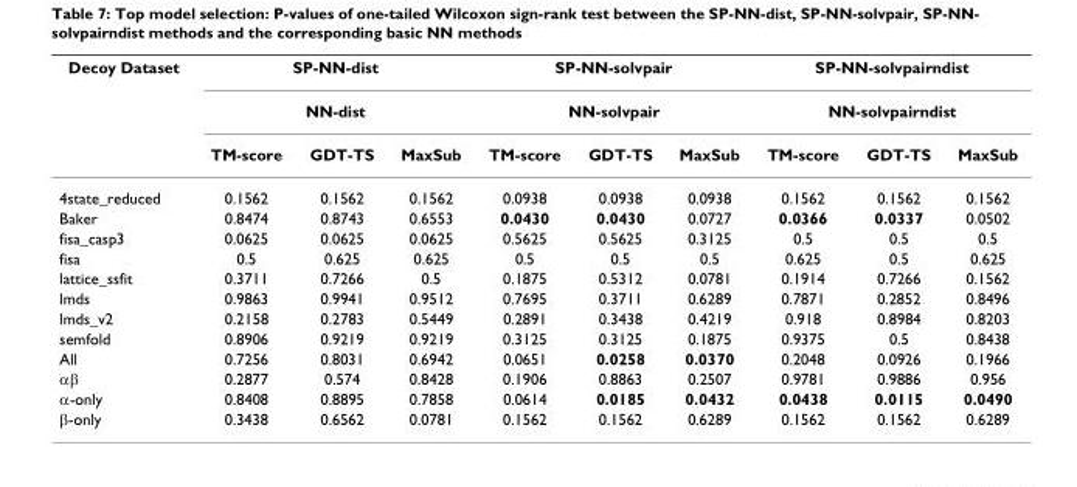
<table><thead><tr><td rowspan="3">Decoy Dataset</td><td rowspan="2" colspan="3">SP-NN-dist NN-dist</td><td rowspan="2" colspan="3">SP-NN-solvpair NN-solvpair</td><td rowspan="2" colspan="3">SP-NN-solvpairndist NN-solvpairndist</td></tr><tr></tr><tr><td>TM-score</td><td>GDT-TS</td><td>MaxSub</td><td>TM-score</td><td>GDT-TS</td><td>MaxSub</td><td>TM-score</td><td>GDT-TS</td><td>MaxSub</td></tr></thead><tbody><tr><td>4state_reduced</td><td>0.1562</td><td>0.1562</td><td>0.1562</td><td>0.0938</td><td>0.0938</td><td>0.0938</td><td>0.1562</td><td>0.1562</td><td>0.1562</td></tr><tr><td>Baker</td><td>0.8474</td><td>0.8743</td><td>0.6553</td><td>0.0430</td><td>0.0430</td><td>0.0727</td><td>0.0366</td><td>0.0337</td><td>0.0502</td></tr><tr><td>fisa_casp3</td><td>0.0625</td><td>0.0625</td><td>0.0625</td><td>0.5625</td><td>0.5625</td><td>0.3125</td><td>0.5</td><td>0.5</td><td>0.5</td></tr><tr><td>fisa</td><td>0.5</td><td>0.625</td><td>0.625</td><td>0.5</td><td>0.5</td><td>0.5</td><td>0.625</td><td>0.5</td><td>0.625</td></tr><tr><td>lattice_ssfit</td><td>0.3711</td><td>0.7266</td><td>0.5</td><td>0.1875</td><td>0.5312</td><td>0.0781</td><td>0.1914</td><td>0.7266</td><td>0.1562</td></tr><tr><td>lmds</td><td>0.9863</td><td>0.9941</td><td>0.9512</td><td>0.7695</td><td>0.3711</td><td>0.6289</td><td>0.7871</td><td>0.2852</td><td>0.8496</td></tr><tr><td>lmds_v2</td><td>0.2158</td><td>0.2783</td><td>0.5449</td><td>0.2891</td><td>0.3438</td><td>0.4219</td><td>0.918</td><td>0.8984</td><td>0.8203</td></tr><tr><td>semfold</td><td>0.8906</td><td>0.9219</td><td>0.9219</td><td>0.3125</td><td>0.3125</td><td>0.1875</td><td>0.9375</td><td>0.5</td><td>0.8438</td></tr><tr><td>All</td><td>0.7256</td><td>0.8031</td><td>0.6942</td><td>0.0651</td><td>0.0258</td><td>0.0370</td><td>0.2048</td><td>0.0926</td><td>0.1966</td></tr><tr><td>αβ</td><td>0.2877</td><td>0.574</td><td>0.8428</td><td>0.1906</td><td>0.8863</td><td>0.2507</td><td>0.9781</td><td>0.9886</td><td>0.956</td></tr><tr><td>α-only</td><td>0.8408</td><td>0.8895</td><td>0.7858</td><td>0.0614</td><td>0.0185</td><td>0.0432</td><td>0.0438</td><td>0.0115</td><td>0.0490</td></tr><tr><td>β-only</td><td>0.3438</td><td>0.6562</td><td>0.0781</td><td>0.1562</td><td>0.1562</td><td>0.6289</td><td>0.1562</td><td>0.1562</td><td>0.6289</td></tr></tbody></table>